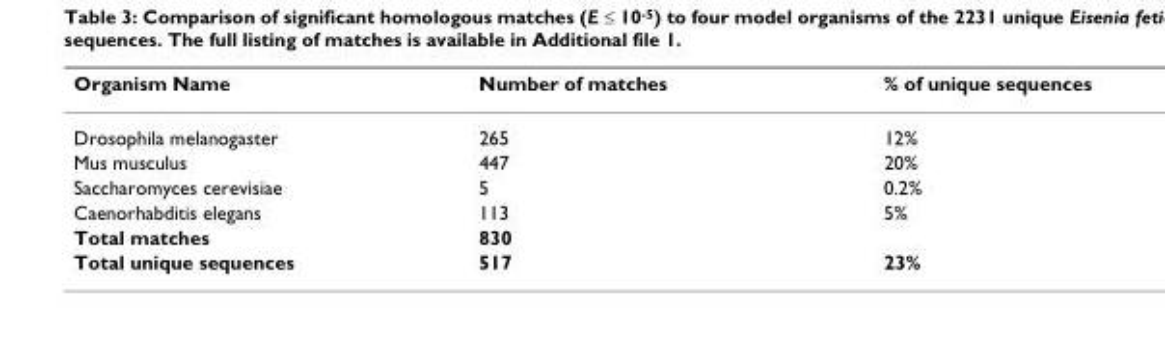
<table><thead><tr><td>Organism Name</td><td>Number of matches</td><td>% of unique sequences</td></tr></thead><tbody><tr><td>Drosophila melanogaster</td><td>265</td><td>12%</td></tr><tr><td>Mus musculus</td><td>447</td><td>20%</td></tr><tr><td>Saccharomyces cerevisiae</td><td>5</td><td>0.2%</td></tr><tr><td>Caenorhabditis elegans</td><td>113</td><td>5%</td></tr><tr><td>Total matches</td><td>830</td><td></td></tr><tr><td>Total unique sequences</td><td>517</td><td>23%</td></tr></tbody></table>